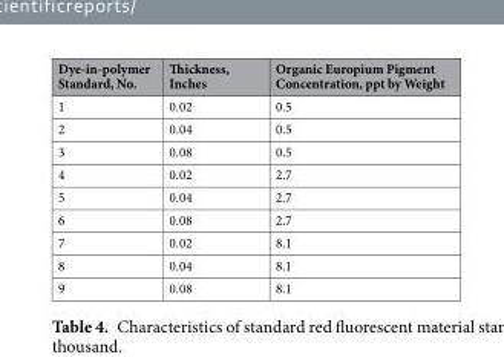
<table><thead><tr><td>Dye-in-polymer Standard, No.</td><td>Thickness, Inches</td><td>Organic Europium Pigment Concentration, ppt by Weight</td></tr></thead><tbody><tr><td>1</td><td>0.02</td><td>0.5</td></tr><tr><td>2</td><td>0.04</td><td>0.5</td></tr><tr><td>3</td><td>0.08</td><td>0.5</td></tr><tr><td>4</td><td>0.02</td><td>2.7</td></tr><tr><td>5</td><td>0.04</td><td>2.7</td></tr><tr><td>6</td><td>0.08</td><td>2.7</td></tr><tr><td>7</td><td>0.02</td><td>8.1</td></tr><tr><td>8</td><td>0.04</td><td>8.1</td></tr><tr><td>9</td><td>0.08</td><td>8.1</td></tr></tbody></table>